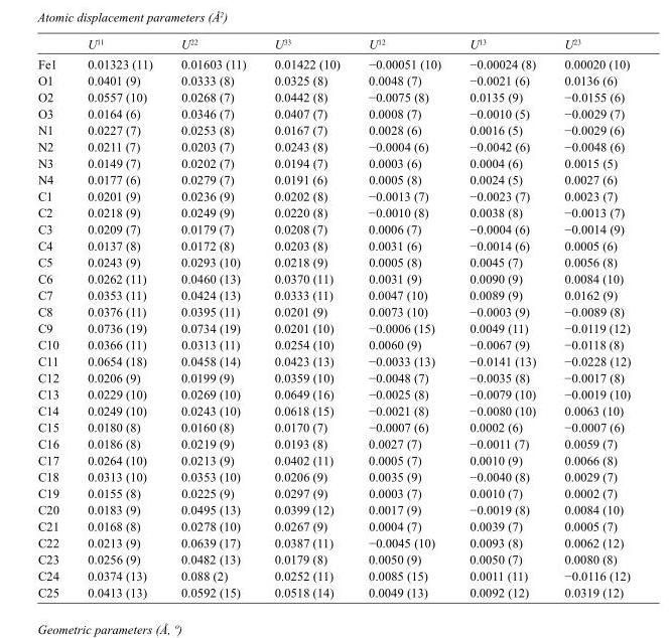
<table><thead><tr><td></td><td>U<sup>11</sup></td><td>U<sup>22</sup></td><td>U<sup>33</sup></td><td>U<sup>12</sup></td><td>U<sup>13</sup></td><td>U<sup>23</sup></td></tr></thead><tbody><tr><td>Fe1</td><td>0.01323 (11)</td><td>0.01603 (11)</td><td>0.01422 (10)</td><td>−0.00051 (10)</td><td>−0.00024 (8)</td><td>0.00020 (10)</td></tr><tr><td>O1</td><td>0.0401 (9)</td><td>0.0333 (8)</td><td>0.0325 (8)</td><td>0.0048 (7)</td><td>−0.0021 (6)</td><td>0.0136 (6)</td></tr><tr><td>O2</td><td>0.0557 (10)</td><td>0.0268 (7)</td><td>0.0442 (8)</td><td>−0.0075 (8)</td><td>0.0135 (9)</td><td>−0.0155 (6)</td></tr><tr><td>O3</td><td>0.0164 (6)</td><td>0.0346 (7)</td><td>0.0407 (7)</td><td>0.0008 (7)</td><td>−0.0010 (5)</td><td>−0.0029 (7)</td></tr><tr><td>N1</td><td>0.0227 (7)</td><td>0.0253 (8)</td><td>0.0167 (7)</td><td>0.0028 (6)</td><td>0.0016 (5)</td><td>−0.0029 (6)</td></tr><tr><td>N2</td><td>0.0211 (7)</td><td>0.0203 (7)</td><td>0.0243 (8)</td><td>−0.0004 (6)</td><td>−0.0042 (6)</td><td>−0.0048 (6)</td></tr><tr><td>N3</td><td>0.0149 (7)</td><td>0.0202 (7)</td><td>0.0194 (7)</td><td>0.0003 (6)</td><td>0.0004 (6)</td><td>0.0015 (5)</td></tr><tr><td>N4</td><td>0.0177 (6)</td><td>0.0279 (7)</td><td>0.0191 (6)</td><td>0.0005 (8)</td><td>0.0024 (5)</td><td>0.0027 (6)</td></tr><tr><td>C1</td><td>0.0201 (9)</td><td>0.0236 (9)</td><td>0.0202 (8)</td><td>−0.0013 (7)</td><td>−0.0023 (7)</td><td>0.0023 (7)</td></tr><tr><td>C2</td><td>0.0218 (9)</td><td>0.0249 (9)</td><td>0.0220 (8)</td><td>−0.0010 (8)</td><td>0.0038 (8)</td><td>−0.0013 (7)</td></tr><tr><td>C3</td><td>0.0209 (7)</td><td>0.0179 (7)</td><td>0.0208 (7)</td><td>0.0006 (7)</td><td>−0.0004 (6)</td><td>−0.0014 (9)</td></tr><tr><td>C4</td><td>0.0137 (8)</td><td>0.0172 (8)</td><td>0.0203 (8)</td><td>0.0031 (6)</td><td>−0.0014 (6)</td><td>0.0005 (6)</td></tr><tr><td>C5</td><td>0.0243 (9)</td><td>0.0293 (10)</td><td>0.0218 (9)</td><td>0.0005 (8)</td><td>0.0045 (7)</td><td>0.0056 (8)</td></tr><tr><td>C6</td><td>0.0262 (11)</td><td>0.0460 (13)</td><td>0.0370 (11)</td><td>0.0031 (9)</td><td>0.0090 (9)</td><td>0.0084 (10)</td></tr><tr><td>C7</td><td>0.0353 (11)</td><td>0.0424 (13)</td><td>0.0333 (11)</td><td>0.0047 (10)</td><td>0.0089 (9)</td><td>0.0162 (9)</td></tr><tr><td>C8</td><td>0.0376 (11)</td><td>0.0395 (11)</td><td>0.0201 (9)</td><td>0.0073 (10)</td><td>−0.0003 (9)</td><td>−0.0089 (8)</td></tr><tr><td>C9</td><td>0.0736 (19)</td><td>0.0734 (19)</td><td>0.0201 (10)</td><td>−0.0006 (15)</td><td>0.0049 (11)</td><td>−0.0119 (12)</td></tr><tr><td>C10</td><td>0.0366 (11)</td><td>0.0313 (11)</td><td>0.0254 (10)</td><td>0.0060 (9)</td><td>−0.0067 (9)</td><td>−0.0118 (8)</td></tr><tr><td>C11</td><td>0.0654 (18)</td><td>0.0458 (14)</td><td>0.0423 (13)</td><td>−0.0033 (13)</td><td>−0.0141 (13)</td><td>−0.0228 (12)</td></tr><tr><td>C12</td><td>0.0206 (9)</td><td>0.0199 (9)</td><td>0.0359 (10)</td><td>−0.0048 (7)</td><td>−0.0035 (8)</td><td>−0.0017 (8)</td></tr><tr><td>C13</td><td>0.0229 (10)</td><td>0.0269 (10)</td><td>0.0649 (16)</td><td>−0.0025 (8)</td><td>−0.0079 (10)</td><td>−0.0019 (10)</td></tr><tr><td>C14</td><td>0.0249 (10)</td><td>0.0243 (10)</td><td>0.0618 (15)</td><td>−0.0021 (8)</td><td>−0.0080 (10)</td><td>0.0063 (10)</td></tr><tr><td>C15</td><td>0.0180 (8)</td><td>0.0160 (8)</td><td>0.0170 (7)</td><td>−0.0007 (6)</td><td>0.0002 (6)</td><td>−0.0007 (6)</td></tr><tr><td>C16</td><td>0.0186 (8)</td><td>0.0219 (9)</td><td>0.0193 (8)</td><td>0.0027 (7)</td><td>−0.0011 (7)</td><td>0.0059 (7)</td></tr><tr><td>C17</td><td>0.0264 (10)</td><td>0.0213 (9)</td><td>0.0402 (11)</td><td>0.0005 (7)</td><td>0.0010 (9)</td><td>0.0066 (8)</td></tr><tr><td>C18</td><td>0.0313 (10)</td><td>0.0353 (10)</td><td>0.0206 (9)</td><td>0.0035 (9)</td><td>−0.0040 (8)</td><td>0.0029 (7)</td></tr><tr><td>C19</td><td>0.0155 (8)</td><td>0.0225 (9)</td><td>0.0297 (9)</td><td>0.0003 (7)</td><td>0.0010 (7)</td><td>0.0002 (7)</td></tr><tr><td>C20</td><td>0.0183 (9)</td><td>0.0495 (13)</td><td>0.0399 (12)</td><td>0.0017 (9)</td><td>−0.0019 (8)</td><td>0.0084 (10)</td></tr><tr><td>C21</td><td>0.0168 (8)</td><td>0.0278 (10)</td><td>0.0267 (9)</td><td>0.0004 (7)</td><td>0.0039 (7)</td><td>0.0005 (7)</td></tr><tr><td>C22</td><td>0.0213 (9)</td><td>0.0639 (17)</td><td>0.0387 (11)</td><td>−0.0045 (10)</td><td>0.0093 (8)</td><td>0.0062 (12)</td></tr><tr><td>C23</td><td>0.0256 (9)</td><td>0.0482 (13)</td><td>0.0179 (8)</td><td>0.0050 (9)</td><td>0.0050 (7)</td><td>0.0080 (8)</td></tr><tr><td>C24</td><td>0.0374 (13)</td><td>0.088 (2)</td><td>0.0252 (11)</td><td>0.0085 (15)</td><td>0.0011 (11)</td><td>−0.0116 (12)</td></tr><tr><td>C25</td><td>0.0413 (13)</td><td>0.0592 (15)</td><td>0.0518 (14)</td><td>0.0049 (13)</td><td>0.0092 (12)</td><td>0.0319 (12)</td></tr></tbody></table>